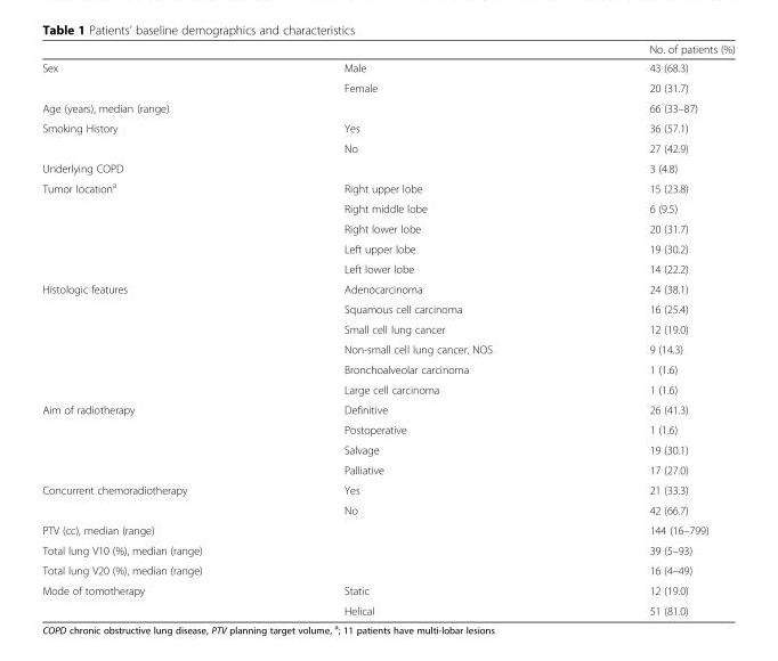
<table><thead><tr><td></td><td></td><td>No. of patients (%)</td></tr></thead><tbody><tr><td rowspan="2">Sex</td><td>Male</td><td>43 (68.3)</td></tr><tr><td>Female</td><td>20 (31.7)</td></tr><tr><td>Age (years), median (range)</td><td></td><td>66 (33–87)</td></tr><tr><td rowspan="2">Smoking History</td><td>Yes</td><td>36 (57.1)</td></tr><tr><td>No</td><td>27 (42.9)</td></tr><tr><td>Underlying COPD</td><td></td><td>3 (4.8)</td></tr><tr><td rowspan="5">Tumor location<sup>a</sup></td><td>Right upper lobe</td><td>15 (23.8)</td></tr><tr><td>Right middle lobe</td><td>6 (9.5)</td></tr><tr><td>Right lower lobe</td><td>20 (31.7)</td></tr><tr><td>Left upper lobe</td><td>19 (30.2)</td></tr><tr><td>Left lower lobe</td><td>14 (22.2)</td></tr><tr><td rowspan="6">Histologic features</td><td>Adenocarcinoma</td><td>24 (38.1)</td></tr><tr><td>Squamous cell carcinoma</td><td>16 (25.4)</td></tr><tr><td>Small cell lung cancer</td><td>12 (19.0)</td></tr><tr><td>Non-small cell lung cancer, NOS</td><td>9 (14.3)</td></tr><tr><td>Bronchoalveolar carcinoma</td><td>1 (1.6)</td></tr><tr><td>Large cell carcinoma</td><td>1 (1.6)</td></tr><tr><td rowspan="4">Aim of radiotherapy</td><td>Definitive</td><td>26 (41.3)</td></tr><tr><td>Postoperative</td><td>1 (1.6)</td></tr><tr><td>Salvage</td><td>19 (30.1)</td></tr><tr><td>Palliative</td><td>17 (27.0)</td></tr><tr><td rowspan="2">Concurrent chemoradiotherapy</td><td>Yes</td><td>21 (33.3)</td></tr><tr><td>No</td><td>42 (66.7)</td></tr><tr><td>PTV (cc), median (range)</td><td></td><td>144 (16–799)</td></tr><tr><td colspan="2">Total lung V10 (%), median (range)</td><td>39 (5–93)</td></tr><tr><td colspan="2">Total lung V20 (%), median (range)</td><td>16 (4–49)</td></tr><tr><td rowspan="2">Mode of tomotherapy</td><td>Static</td><td>12 (19.0)</td></tr><tr><td>Helical</td><td>51 (81.0)</td></tr></tbody></table>